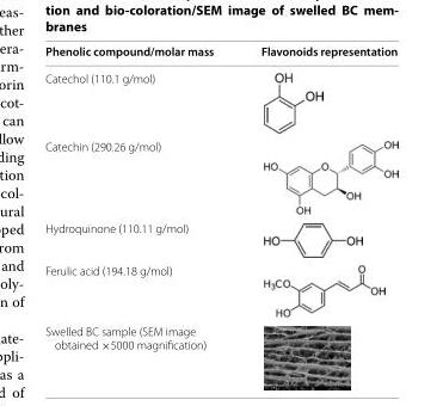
<table><thead><tr><td>Phenolic compound/molar mass</td><td>Flavonoids representation</td></tr></thead><tbody><tr><td colspan="2">Catechol (110.1 g/mol)</td></tr><tr><td colspan="2">Catechin (290.26 g/mol)</td></tr><tr><td colspan="2">Hydroquinone (110.11 g/mol)</td></tr><tr><td colspan="2">Ferulic acid (194.18 g/mol)</td></tr><tr><td>Swelled BC sample (SEM image obtained ×5000 magnification)</td><td></td></tr></tbody></table>